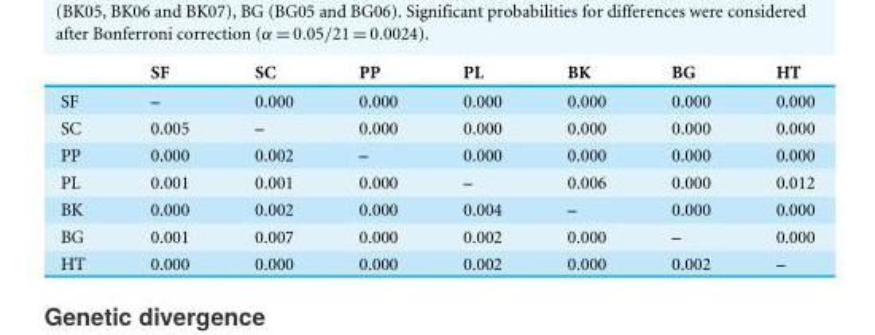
<table><thead><tr><td></td><td>SF</td><td>SC</td><td>PP</td><td>PL</td><td>BK</td><td>BG</td><td>HT</td></tr></thead><tbody><tr><td>SF</td><td>–</td><td>0.000</td><td>0.000</td><td>0.000</td><td>0.000</td><td>0.000</td><td>0.000</td></tr><tr><td>SC</td><td>0.005</td><td>–</td><td>0.000</td><td>0.000</td><td>0.000</td><td>0.000</td><td>0.000</td></tr><tr><td>PP</td><td>0.000</td><td>0.002</td><td>–</td><td>0.000</td><td>0.000</td><td>0.000</td><td>0.000</td></tr><tr><td>PL</td><td>0.001</td><td>0.001</td><td>0.000</td><td>–</td><td>0.006</td><td>0.000</td><td>0.012</td></tr><tr><td>BK</td><td>0.000</td><td>0.002</td><td>0.000</td><td>0.004</td><td>–</td><td>0.000</td><td>0.000</td></tr><tr><td>BG</td><td>0.001</td><td>0.007</td><td>0.000</td><td>0.002</td><td>0.000</td><td>–</td><td>0.000</td></tr><tr><td>HT</td><td>0.000</td><td>0.000</td><td>0.000</td><td>0.002</td><td>0.000</td><td>0.002</td><td>–</td></tr></tbody></table>